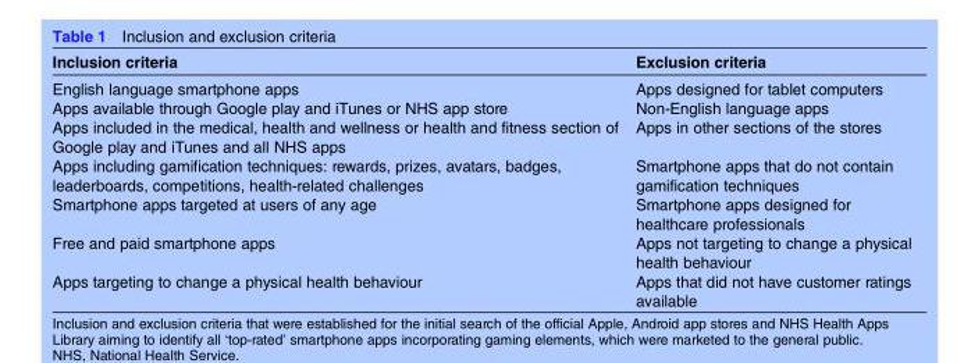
<table><thead><tr><td>Inclusion criteria</td><td>Exclusion criteria</td></tr></thead><tbody><tr><td>English language smartphone apps</td><td>Apps designed for tablet computers</td></tr><tr><td>Apps available through Google play and iTunes or NHS app store</td><td>Non-English language apps</td></tr><tr><td>Apps included in the medical, health and wellness or health and fitness section of Google play and iTunes and all NHS apps</td><td>Apps in other sections of the stores</td></tr><tr><td>Apps including gamification techniques: rewards, prizes, avatars, badges, leaderboards, competitions, health-related challenges</td><td>Smartphone apps that do not contain gamification techniques</td></tr><tr><td>Smartphone apps targeted at users of any age</td><td>Smartphone apps designed for healthcare professionals</td></tr><tr><td>Free and paid smartphone apps</td><td>Apps not targeting to change a physical health behaviour</td></tr><tr><td>Apps targeting to change a physical health behaviour</td><td>Apps that did not have customer ratings available</td></tr></tbody></table>